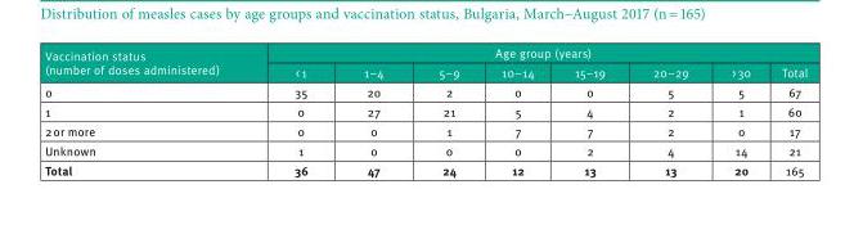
<table><thead><tr><td rowspan="2">Vaccination status (number of doses administered)</td><td colspan="8">Age group (years)</td></tr><tr><td>&lt; 1</td><td>1–4</td><td>5–9</td><td>10–14</td><td>15–19</td><td>20–29</td><td>&gt; 30</td><td>Total</td></tr></thead><tbody><tr><td>0</td><td>35</td><td>20</td><td>2</td><td>0</td><td>0</td><td>5</td><td>5</td><td>67</td></tr><tr><td>1</td><td>0</td><td>27</td><td>21</td><td>5</td><td>4</td><td>2</td><td>1</td><td>60</td></tr><tr><td>2 or more</td><td>0</td><td>0</td><td>1</td><td>7</td><td>7</td><td>2</td><td>0</td><td>17</td></tr><tr><td>Unknown</td><td>1</td><td>0</td><td>0</td><td>0</td><td>2</td><td>4</td><td>14</td><td>21</td></tr><tr><td>Total</td><td>36</td><td>47</td><td>24</td><td>12</td><td>13</td><td>13</td><td>20</td><td>165</td></tr></tbody></table>